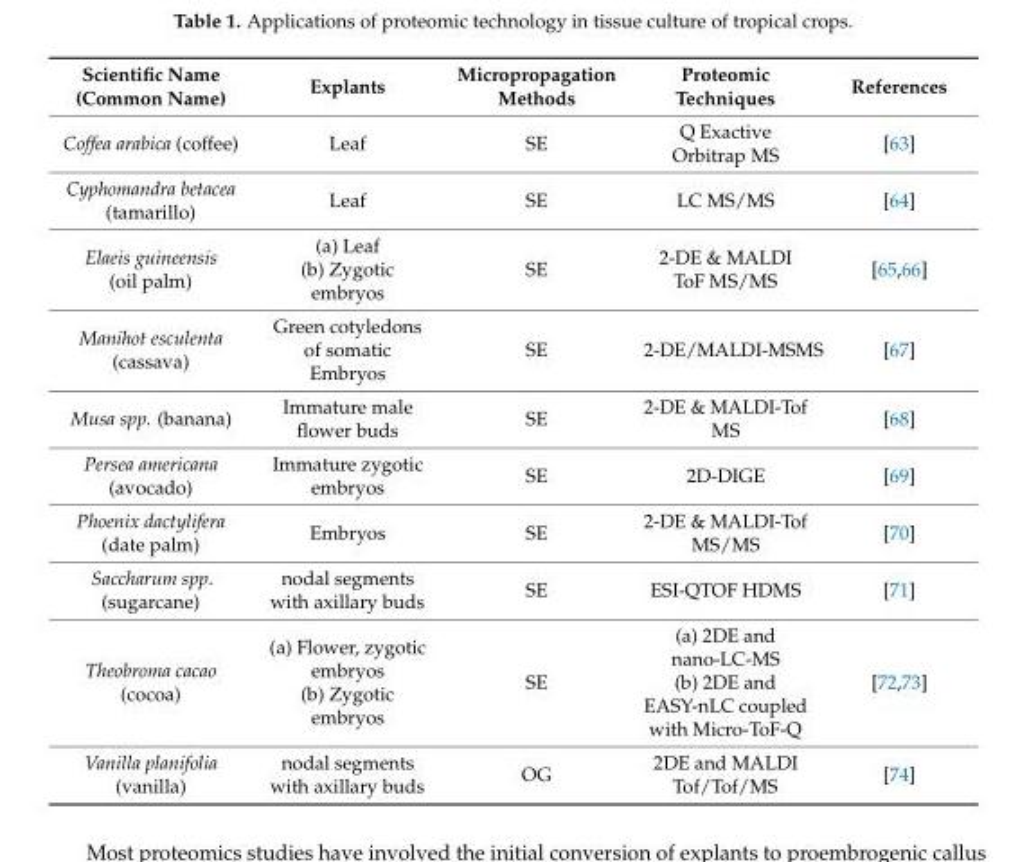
<table><thead><tr><td>Scientific Name (Common Name)</td><td>Explants</td><td>Micropropagation Methods</td><td>Proteomic Techniques</td><td>References</td></tr></thead><tbody><tr><td>Coffea arabica (coffee)</td><td>Leaf</td><td>SE</td><td>Q Exactive Orbitrap MS</td><td>[63]</td></tr><tr><td>Cyphomandra betacea (tamarillo)</td><td>Leaf</td><td>SE</td><td>LC MS/MS</td><td>[64]</td></tr><tr><td>Elaeis guineensis (oil palm)</td><td>(a) Leaf (b) Zygotic embryos</td><td>SE</td><td>2-DE &amp; MALDI ToF MS/MS</td><td>[65,66]</td></tr><tr><td>Manihot esculenta (cassava)</td><td>Green cotyledons of somatic Embryos</td><td>SE</td><td>2-DE/MALDI-MSMS</td><td>[67]</td></tr><tr><td>Musa spp. (banana)</td><td>Immature male flower buds</td><td>SE</td><td>2-DE &amp; MALDI-Tof MS</td><td>[68]</td></tr><tr><td>Persea americana (avocado)</td><td>Immature zygotic embryos</td><td>SE</td><td>2D-DIGE</td><td>[69]</td></tr><tr><td>Phoenix dactylifera (date palm)</td><td>Embryos</td><td>SE</td><td>2-DE &amp; MALDI-Tof MS/MS</td><td>[70]</td></tr><tr><td>Saccharum spp. (sugarcane)</td><td>nodal segments with axillary buds</td><td>SE</td><td>ESI-QTOF HDMS</td><td>[71]</td></tr><tr><td>Theobroma cacao (cocoa)</td><td>(a) Flower, zygotic embryos (b) Zygotic embryos</td><td>SE</td><td>(a) 2DE and nano-LC-MS (b) 2DE and EASY-nLC coupled with Micro-ToF-Q</td><td>[72,73]</td></tr><tr><td>Vanilla planifolia (vanilla)</td><td>nodal segments with axillary buds</td><td>OG</td><td>2DE and MALDI Tof/Tof/MS</td><td>[74]</td></tr></tbody></table>